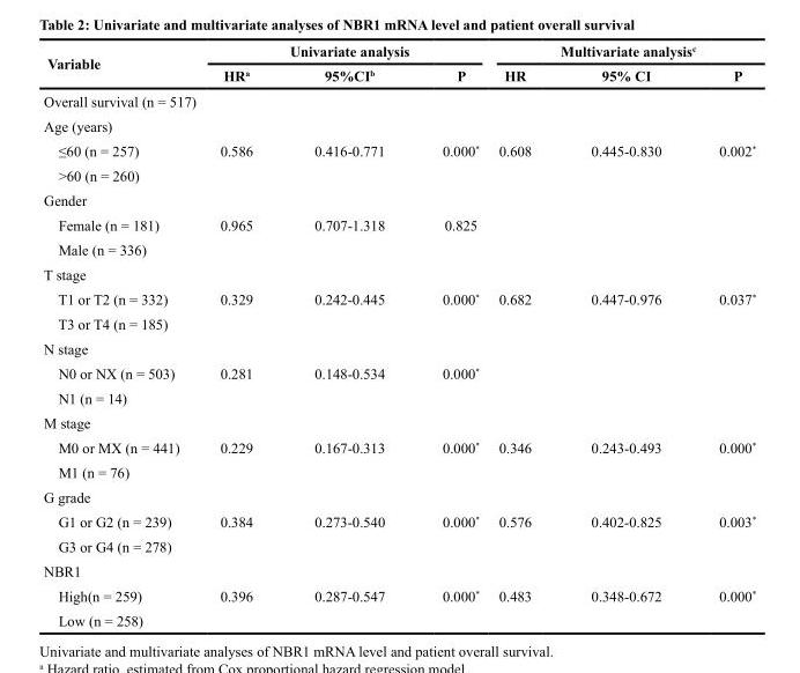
<table><thead><tr><td rowspan="2">Variable</td><td colspan="3">Univariate analysis</td><td colspan="3">Multivariate analysis<sup>c</sup></td></tr><tr><td>HR<sup>a</sup></td><td>95%CI<sup>b</sup></td><td>P</td><td>HR</td><td>95% CI</td><td>P</td></tr></thead><tbody><tr><td colspan="7">Overall survival (n = 517)</td></tr><tr><td colspan="7">Age (years)</td></tr><tr><td>≤60 (n = 257)</td><td>0.586</td><td>0.416-0.771</td><td>0.000*</td><td>0.608</td><td>0.445-0.830</td><td>0.002*</td></tr><tr><td colspan="7">&gt;60 (n = 260)</td></tr><tr><td colspan="7">Gender</td></tr><tr><td>Female (n = 181)</td><td>0.965</td><td>0.707-1.318</td><td>0.825</td><td></td><td></td><td></td></tr><tr><td colspan="7">Male (n = 336)</td></tr><tr><td colspan="7">T stage</td></tr><tr><td>T1 or T2 (n = 332)</td><td>0.329</td><td>0.242-0.445</td><td>0.000*</td><td>0.682</td><td>0.447-0.976</td><td>0.037*</td></tr><tr><td colspan="7">T3 or T4 (n = 185)</td></tr><tr><td colspan="7">N stage</td></tr><tr><td>N0 or NX (n = 503)</td><td>0.281</td><td>0.148-0.534</td><td>0.000*</td><td></td><td></td><td></td></tr><tr><td colspan="7">N1 (n = 14)</td></tr><tr><td colspan="7">M stage</td></tr><tr><td>M0 or MX (n = 441)</td><td>0.229</td><td>0.167-0.313</td><td>0.000*</td><td>0.346</td><td>0.243-0.493</td><td>0.000*</td></tr><tr><td colspan="7">M1 (n = 76)</td></tr><tr><td colspan="7">G grade</td></tr><tr><td>G1 or G2 (n = 239)</td><td>0.384</td><td>0.273-0.540</td><td>0.000*</td><td>0.576</td><td>0.402-0.825</td><td>0.003*</td></tr><tr><td colspan="7">G3 or G4 (n = 278)</td></tr><tr><td colspan="7">NBR1</td></tr><tr><td>High(n = 259)</td><td>0.396</td><td>0.287-0.547</td><td>0.000*</td><td>0.483</td><td>0.348-0.672</td><td>0.000*</td></tr><tr><td>Low (n = 258)</td><td></td><td></td><td></td><td></td><td></td><td></td></tr></tbody></table>